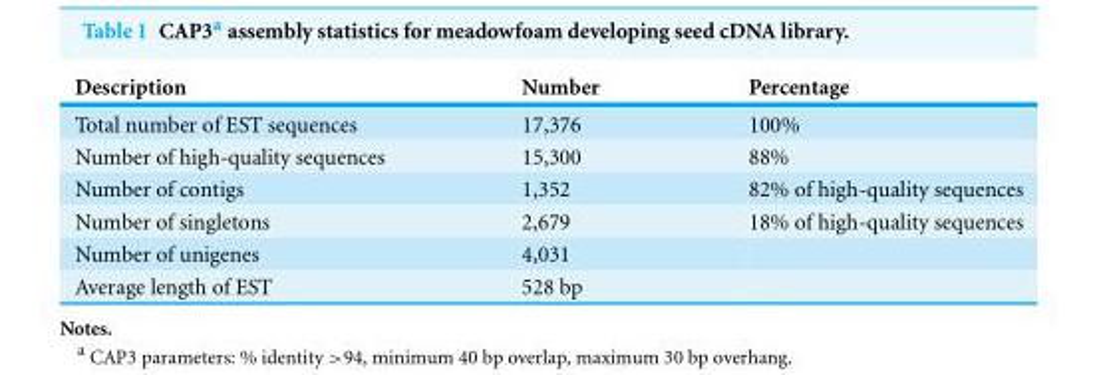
<table><thead><tr><td>Description</td><td>Number</td><td>Percentage</td></tr></thead><tbody><tr><td>Total number of EST sequences</td><td>17,376</td><td>100%</td></tr><tr><td>Number of high-quality sequences</td><td>15,300</td><td>88%</td></tr><tr><td>Number of contigs</td><td>1,352</td><td>82% of high-quality sequences</td></tr><tr><td>Number of singletons</td><td>2,679</td><td>18% of high-quality sequences</td></tr><tr><td>Number of unigenes</td><td>4,031</td><td></td></tr><tr><td>Average length of EST</td><td>528 bp</td><td></td></tr></tbody></table>